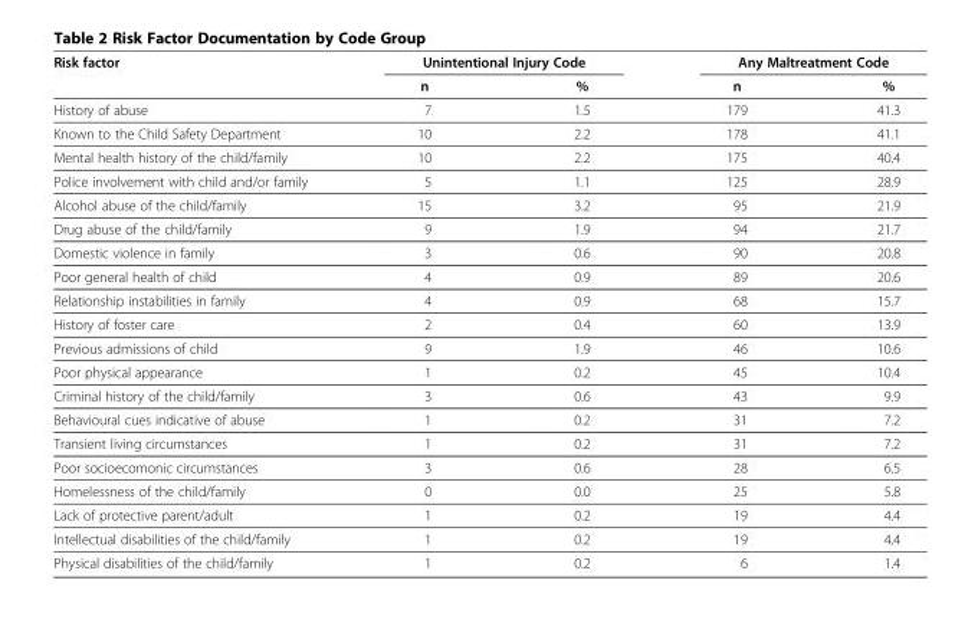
<table><thead><tr><td rowspan="2">Risk factor</td><td colspan="2">Unintentional Injury Code</td><td colspan="2">Any Maltreatment Code</td></tr><tr><td>n</td><td>%</td><td>n</td><td>%</td></tr></thead><tbody><tr><td>History of abuse</td><td>7</td><td>1.5</td><td>179</td><td>41.3</td></tr><tr><td>Known to the Child Safety Department</td><td>10</td><td>2.2</td><td>178</td><td>41.1</td></tr><tr><td>Mental health history of the child/family</td><td>10</td><td>2.2</td><td>175</td><td>40.4</td></tr><tr><td>Police involvement with child and/or family</td><td>5</td><td>1.1</td><td>125</td><td>28.9</td></tr><tr><td>Alcohol abuse of the child/family</td><td>15</td><td>3.2</td><td>95</td><td>21.9</td></tr><tr><td>Drug abuse of the child/family</td><td>9</td><td>1.9</td><td>94</td><td>21.7</td></tr><tr><td>Domestic violence in family</td><td>3</td><td>0.6</td><td>90</td><td>20.8</td></tr><tr><td>Poor general health of child</td><td>4</td><td>0.9</td><td>89</td><td>20.6</td></tr><tr><td>Relationship instabilities in family</td><td>4</td><td>0.9</td><td>68</td><td>15.7</td></tr><tr><td>History of foster care</td><td>2</td><td>0.4</td><td>60</td><td>13.9</td></tr><tr><td>Previous admissions of child</td><td>9</td><td>1.9</td><td>46</td><td>10.6</td></tr><tr><td>Poor physical appearance</td><td>1</td><td>0.2</td><td>45</td><td>10.4</td></tr><tr><td>Criminal history of the child/family</td><td>3</td><td>0.6</td><td>43</td><td>9.9</td></tr><tr><td>Behavioural cues indicative of abuse</td><td>1</td><td>0.2</td><td>31</td><td>7.2</td></tr><tr><td>Transient living circumstances</td><td>1</td><td>0.2</td><td>31</td><td>7.2</td></tr><tr><td>Poor socioecomonic circumstances</td><td>3</td><td>0.6</td><td>28</td><td>6.5</td></tr><tr><td>Homelessness of the child/family</td><td>0</td><td>0.0</td><td>25</td><td>5.8</td></tr><tr><td>Lack of protective parent/adult</td><td>1</td><td>0.2</td><td>19</td><td>4.4</td></tr><tr><td>Intellectual disabilities of the child/family</td><td>1</td><td>0.2</td><td>19</td><td>4.4</td></tr><tr><td>Physical disabilities of the child/family</td><td>1</td><td>0.2</td><td>6</td><td>1.4</td></tr></tbody></table>